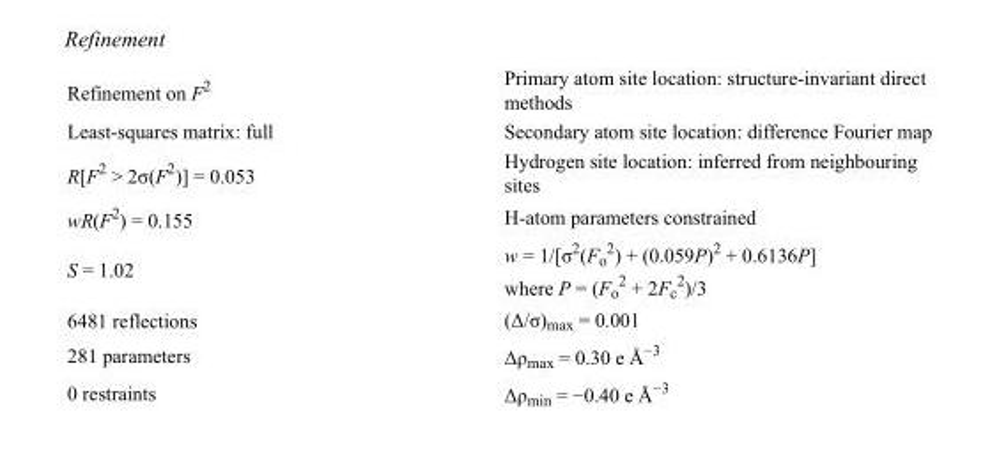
<table><tbody><tr><td>Refinement on F<sup>2</sup></td><td>Primary atom site location: structure-invariant direct methods</td></tr><tr><td>Least-squares matrix: full</td><td>Secondary atom site location: difference Fourier map</td></tr><tr><td>R[F<sup>2</sup> &gt; 2σ(F<sup>2</sup>)] = 0.053</td><td>Hydrogen site location: inferred from neighbouring sites</td></tr><tr><td>wR(F<sup>2</sup>) = 0.155</td><td>H-atom parameters constrained</td></tr><tr><td>S = 1.02</td><td>w = 1/[σ<sup>2</sup>(F<sub>o</sub> <sup>2</sup>) + (0.059P)<sup>2</sup> + 0.6136P] where P = (F<sub>o</sub> <sup>2</sup> + 2F<sub>c</sub> <sup>2</sup>)/3</td></tr><tr><td>6481 reflections</td><td>(Δ/σ)<sub>max</sub> = 0.001</td></tr><tr><td>281 parameters</td><td>Δρ<sub>max</sub> = 0.30 e Å<sup>−3</sup></td></tr><tr><td>0 restraints</td><td>Δρ<sub>min</sub> = −0.40 e Å<sup>−3</sup></td></tr></tbody></table>